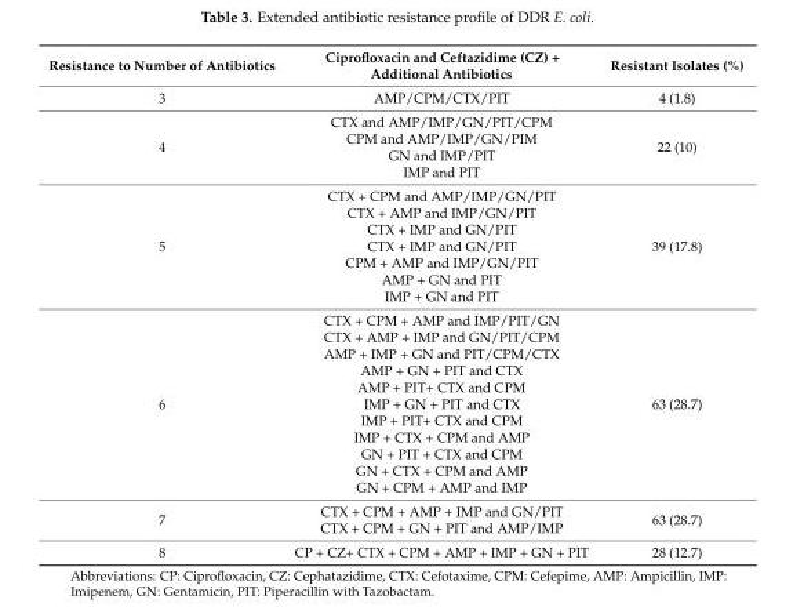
<table><thead><tr><td>Resistance to Number of Antibiotics</td><td>Ciprofloxacin and Ceftazidime (CZ) + Additional Antibiotics</td><td>Resistant Isolates (%)</td></tr></thead><tbody><tr><td>3</td><td>AMP/CPM/CTX/PIT</td><td>4 (1.8)</td></tr><tr><td>4</td><td>CTX and AMP/IMP/GN/PIT/CPM CPM and AMP/IMP/GN/PIM GN and IMP/PIT IMP and PIT</td><td>22 (10)</td></tr><tr><td>5</td><td>CTX + CPM and AMP/IMP/GN/PIT CTX + AMP and IMP/GN/PIT CTX + IMP and GN/PIT CTX + IMP and GN/PIT CPM + AMP and IMP/GN/PIT AMP + GN and PIT IMP + GN and PIT</td><td>39 (17.8)</td></tr><tr><td>6</td><td>CTX + CPM + AMP and IMP/PIT/GN CTX + AMP + IMP and GN/PIT/CPM AMP + IMP + GN and PIT/CPM/CTX AMP + GN + PIT and CTX AMP + PIT+ CTX and CPM IMP + GN + PIT and CTX IMP + PIT+ CTX and CPM IMP + CTX + CPM and AMP GN + PIT + CTX and CPM GN + CTX + CPM and AMP GN + CPM + AMP and IMP</td><td>63 (28.7)</td></tr><tr><td>7</td><td>CTX + CPM + AMP + IMP and GN/PIT CTX + CPM + GN + PIT and AMP/IMP</td><td>63 (28.7)</td></tr><tr><td>8</td><td>CP + CZ+ CTX + CPM + AMP + IMP + GN + PIT</td><td>28 (12.7)</td></tr></tbody></table>